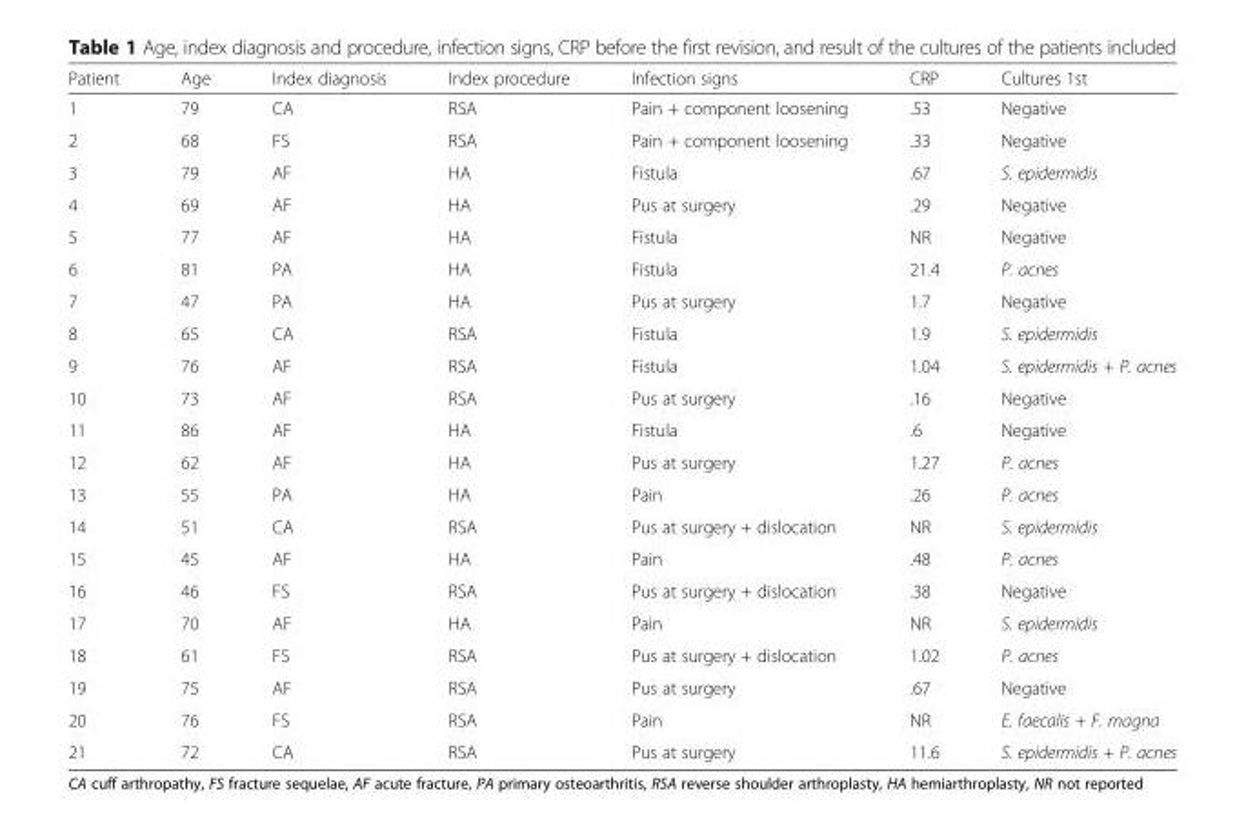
<table><thead><tr><td>Patient</td><td>Age</td><td>Index diagnosis</td><td>Index procedure</td><td>Infection signs</td><td>CRP</td><td>Cultures 1st</td></tr></thead><tbody><tr><td>1</td><td>79</td><td>CA</td><td>RSA</td><td>Pain + component loosening</td><td>.53</td><td>Negative</td></tr><tr><td>2</td><td>68</td><td>FS</td><td>RSA</td><td>Pain + component loosening</td><td>.33</td><td>Negative</td></tr><tr><td>3</td><td>79</td><td>AF</td><td>HA</td><td>Fistula</td><td>.67</td><td>S. epidermidis</td></tr><tr><td>4</td><td>69</td><td>AF</td><td>HA</td><td>Pus at surgery</td><td>.29</td><td>Negative</td></tr><tr><td>5</td><td>77</td><td>AF</td><td>HA</td><td>Fistula</td><td>NR</td><td>Negative</td></tr><tr><td>6</td><td>81</td><td>PA</td><td>HA</td><td>Fistula</td><td>21.4</td><td>P. acnes</td></tr><tr><td>7</td><td>47</td><td>PA</td><td>HA</td><td>Pus at surgery</td><td>1.7</td><td>Negative</td></tr><tr><td>8</td><td>65</td><td>CA</td><td>RSA</td><td>Fistula</td><td>1.9</td><td>S. epidermidis</td></tr><tr><td>9</td><td>76</td><td>AF</td><td>RSA</td><td>Fistula</td><td>1.04</td><td>S. epidermidis + P. acnes</td></tr><tr><td>10</td><td>73</td><td>AF</td><td>RSA</td><td>Pus at surgery</td><td>.16</td><td>Negative</td></tr><tr><td>11</td><td>86</td><td>AF</td><td>HA</td><td>Fistula</td><td>.6</td><td>Negative</td></tr><tr><td>12</td><td>62</td><td>AF</td><td>HA</td><td>Pus at surgery</td><td>1.27</td><td>P. acnes</td></tr><tr><td>13</td><td>55</td><td>PA</td><td>HA</td><td>Pain</td><td>.26</td><td>P. acnes</td></tr><tr><td>14</td><td>51</td><td>CA</td><td>RSA</td><td>Pus at surgery + dislocation</td><td>NR</td><td>S. epidermidis</td></tr><tr><td>15</td><td>45</td><td>AF</td><td>HA</td><td>Pain</td><td>.48</td><td>P. acnes</td></tr><tr><td>16</td><td>46</td><td>FS</td><td>RSA</td><td>Pus at surgery + dislocation</td><td>.38</td><td>Negative</td></tr><tr><td>17</td><td>70</td><td>AF</td><td>HA</td><td>Pain</td><td>NR</td><td>S. epidermidis</td></tr><tr><td>18</td><td>61</td><td>FS</td><td>RSA</td><td>Pus at surgery + dislocation</td><td>1.02</td><td>P. acnes</td></tr><tr><td>19</td><td>75</td><td>AF</td><td>RSA</td><td>Pus at surgery</td><td>.67</td><td>Negative</td></tr><tr><td>20</td><td>76</td><td>FS</td><td>RSA</td><td>Pain</td><td>NR</td><td>E. faecalis + F. magna</td></tr><tr><td>21</td><td>72</td><td>CA</td><td>RSA</td><td>Pus at surgery</td><td>11.6</td><td>S. epidermidis + P. acnes</td></tr></tbody></table>